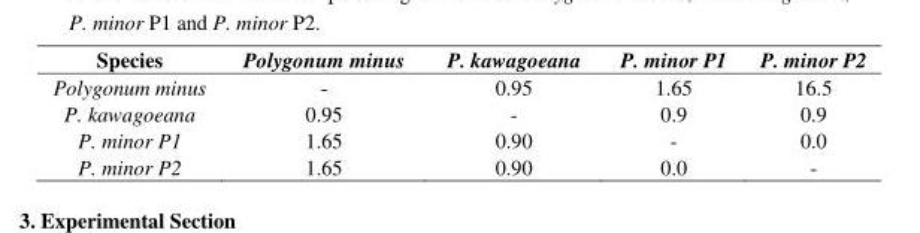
<table><thead><tr><td>Species</td><td>Polygonum minus</td><td>P. kawagoeana</td><td>P. minor P1</td><td>P. minor P2</td></tr></thead><tbody><tr><td>Polygonum minus</td><td>-</td><td>0.95</td><td>1.65</td><td>16.5</td></tr><tr><td>P. kawagoeana</td><td>0.95</td><td>-</td><td>0.9</td><td>0.9</td></tr><tr><td>P. minor P1</td><td>1.65</td><td>0.90</td><td>-</td><td>0.0</td></tr><tr><td>P. minor P2</td><td>1.65</td><td>0.90</td><td>0.0</td><td>-</td></tr></tbody></table>